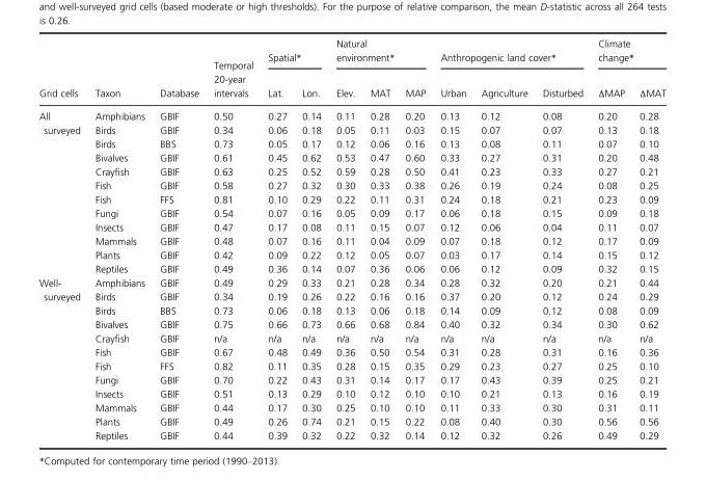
<table><thead><tr><td rowspan="2">Grid cells</td><td rowspan="2">Taxon</td><td rowspan="2">Database</td><td rowspan="2">Temporal 20-year intervals</td><td colspan="2">Spatial*</td><td colspan="3">Natural environment*</td><td colspan="3">Anthropogenic land cover*</td><td colspan="2">Climate change*</td></tr><tr><td>Lat.</td><td>Lon.</td><td>Elev.</td><td>MAT</td><td>MAP</td><td>Urban</td><td>Agriculture</td><td>Disturbed</td><td>ΔMAP</td><td>ΔMAT</td></tr></thead><tbody><tr><td rowspan="12">All surveyed</td><td>Amphibians</td><td>GBIF</td><td>0.50</td><td>0.27</td><td>0.14</td><td>0.11</td><td>0.28</td><td>0.20</td><td>0.13</td><td>0.12</td><td>0.08</td><td>0.20</td><td>0.28</td></tr><tr><td>Birds</td><td>GBIF</td><td>0.34</td><td>0.06</td><td>0.18</td><td>0.05</td><td>0.11</td><td>0.03</td><td>0.15</td><td>0.07</td><td>0.07</td><td>0.13</td><td>0.18</td></tr><tr><td>Birds</td><td>BBS</td><td>0.73</td><td>0.05</td><td>0.17</td><td>0.12</td><td>0.06</td><td>0.16</td><td>0.13</td><td>0.08</td><td>0.11</td><td>0.07</td><td>0.10</td></tr><tr><td>Bivalves</td><td>GBIF</td><td>0.61</td><td>0.45</td><td>0.62</td><td>0.53</td><td>0.47</td><td>0.60</td><td>0.33</td><td>0.27</td><td>0.31</td><td>0.20</td><td>0.48</td></tr><tr><td>Crayfish</td><td>GBIF</td><td>0.63</td><td>0.25</td><td>0.52</td><td>0.59</td><td>0.28</td><td>0.50</td><td>0.41</td><td>0.23</td><td>0.33</td><td>0.27</td><td>0.21</td></tr><tr><td>Fish</td><td>GBIF</td><td>0.58</td><td>0.27</td><td>0.32</td><td>0.30</td><td>0.33</td><td>0.38</td><td>0.26</td><td>0.19</td><td>0.24</td><td>0.08</td><td>0.25</td></tr><tr><td>Fish</td><td>FFS</td><td>0.81</td><td>0.10</td><td>0.29</td><td>0.22</td><td>0.11</td><td>0.31</td><td>0.24</td><td>0.18</td><td>0.21</td><td>0.23</td><td>0.09</td></tr><tr><td>Fungi</td><td>GBIF</td><td>0.54</td><td>0.07</td><td>0.16</td><td>0.05</td><td>0.09</td><td>0.17</td><td>0.06</td><td>0.18</td><td>0.15</td><td>0.09</td><td>0.18</td></tr><tr><td>Insects</td><td>GBIF</td><td>0.47</td><td>0.17</td><td>0.08</td><td>0.11</td><td>0.15</td><td>0.07</td><td>0.12</td><td>0.06</td><td>0.04</td><td>0.11</td><td>0.07</td></tr><tr><td>Mammals</td><td>GBIF</td><td>0.48</td><td>0.07</td><td>0.16</td><td>0.11</td><td>0.04</td><td>0.09</td><td>0.07</td><td>0.18</td><td>0.12</td><td>0.17</td><td>0.09</td></tr><tr><td>Plants</td><td>GBIF</td><td>0.42</td><td>0.09</td><td>0.22</td><td>0.12</td><td>0.05</td><td>0.07</td><td>0.03</td><td>0.17</td><td>0.14</td><td>0.15</td><td>0.12</td></tr><tr><td>Reptiles</td><td>GBIF</td><td>0.49</td><td>0.36</td><td>0.14</td><td>0.07</td><td>0.36</td><td>0.06</td><td>0.06</td><td>0.12</td><td>0.09</td><td>0.32</td><td>0.15</td></tr><tr><td rowspan="12">Well- surveyed</td><td>Amphibians</td><td>GBIF</td><td>0.49</td><td>0.29</td><td>0.33</td><td>0.21</td><td>0.28</td><td>0.34</td><td>0.28</td><td>0.32</td><td>0.20</td><td>0.21</td><td>0.44</td></tr><tr><td>Birds</td><td>GBIF</td><td>0.34</td><td>0.19</td><td>0.26</td><td>0.22</td><td>0.16</td><td>0.16</td><td>0.37</td><td>0.20</td><td>0.12</td><td>0.24</td><td>0.29</td></tr><tr><td>Birds</td><td>BBS</td><td>0.73</td><td>0.06</td><td>0.18</td><td>0.13</td><td>0.06</td><td>0.18</td><td>0.14</td><td>0.09</td><td>0.12</td><td>0.08</td><td>0.09</td></tr><tr><td>Bivalves</td><td>GBIF</td><td>0.75</td><td>0.66</td><td>0.73</td><td>0.66</td><td>0.68</td><td>0.84</td><td>0.40</td><td>0.32</td><td>0.34</td><td>0.30</td><td>0.62</td></tr><tr><td>Crayfish</td><td>GBIF</td><td>n/a</td><td>n/a</td><td>n/a</td><td>n/a</td><td>n/a</td><td>n/a</td><td>n/a</td><td>n/a</td><td>n/a</td><td>n/a</td><td>n/a</td></tr><tr><td>Fish</td><td>GBIF</td><td>0.67</td><td>0.48</td><td>0.49</td><td>0.36</td><td>0.50</td><td>0.54</td><td>0.31</td><td>0.28</td><td>0.31</td><td>0.16</td><td>0.36</td></tr><tr><td>Fish</td><td>FFS</td><td>0.82</td><td>0.11</td><td>0.35</td><td>0.28</td><td>0.15</td><td>0.35</td><td>0.29</td><td>0.23</td><td>0.27</td><td>0.25</td><td>0.10</td></tr><tr><td>Fungi</td><td>GBIF</td><td>0.70</td><td>0.22</td><td>0.43</td><td>0.31</td><td>0.14</td><td>0.17</td><td>0.17</td><td>0.43</td><td>0.39</td><td>0.25</td><td>0.21</td></tr><tr><td>Insects</td><td>GBIF</td><td>0.51</td><td>0.13</td><td>0.29</td><td>0.10</td><td>0.12</td><td>0.10</td><td>0.10</td><td>0.21</td><td>0.13</td><td>0.16</td><td>0.19</td></tr><tr><td>Mammals</td><td>GBIF</td><td>0.44</td><td>0.17</td><td>0.30</td><td>0.25</td><td>0.10</td><td>0.10</td><td>0.11</td><td>0.33</td><td>0.30</td><td>0.31</td><td>0.11</td></tr><tr><td>Plants</td><td>GBIF</td><td>0.49</td><td>0.26</td><td>0.74</td><td>0.21</td><td>0.15</td><td>0.22</td><td>0.08</td><td>0.40</td><td>0.30</td><td>0.56</td><td>0.56</td></tr><tr><td>Reptiles</td><td>GBIF</td><td>0.44</td><td>0.39</td><td>0.32</td><td>0.22</td><td>0.32</td><td>0.14</td><td>0.12</td><td>0.32</td><td>0.26</td><td>0.49</td><td>0.29</td></tr></tbody></table>